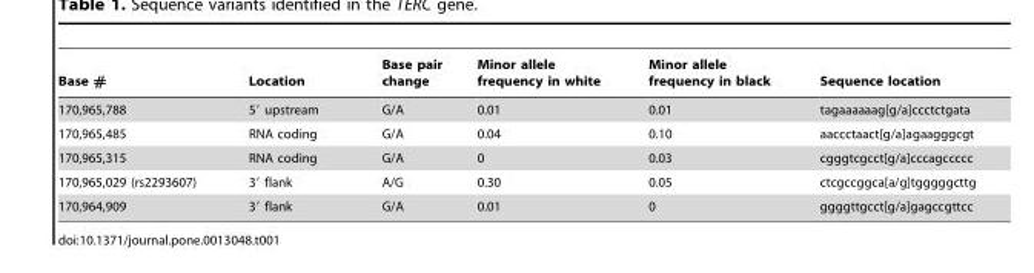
<table><thead><tr><td>Base #</td><td>Location</td><td>Base pair change</td><td>Minor allele frequency in white</td><td>Minor allele frequency in black</td><td>Sequence location</td></tr></thead><tbody><tr><td>170,965,788</td><td>5′ upstream</td><td>G/A</td><td>0.01</td><td>0.01</td><td>tagaaaaaag[g/a]ccctctgata</td></tr><tr><td>170,965,485</td><td>RNA coding</td><td>G/A</td><td>0.04</td><td>0.10</td><td>aaccctaact[g/a]agaagggcgt</td></tr><tr><td>170,965,315</td><td>RNA coding</td><td>G/A</td><td>0</td><td>0.03</td><td>cgggtcgcct[g/a]cccagccccc</td></tr><tr><td>170,965,029 (rs2293607)</td><td>3′ flank</td><td>A/G</td><td>0.30</td><td>0.05</td><td>ctcgccggca[a/g]tgggggcttg</td></tr><tr><td>170,964,909</td><td>3′ flank</td><td>G/A</td><td>0.01</td><td>0</td><td>ggggttgcct[g/a]gagccgttcc</td></tr></tbody></table>